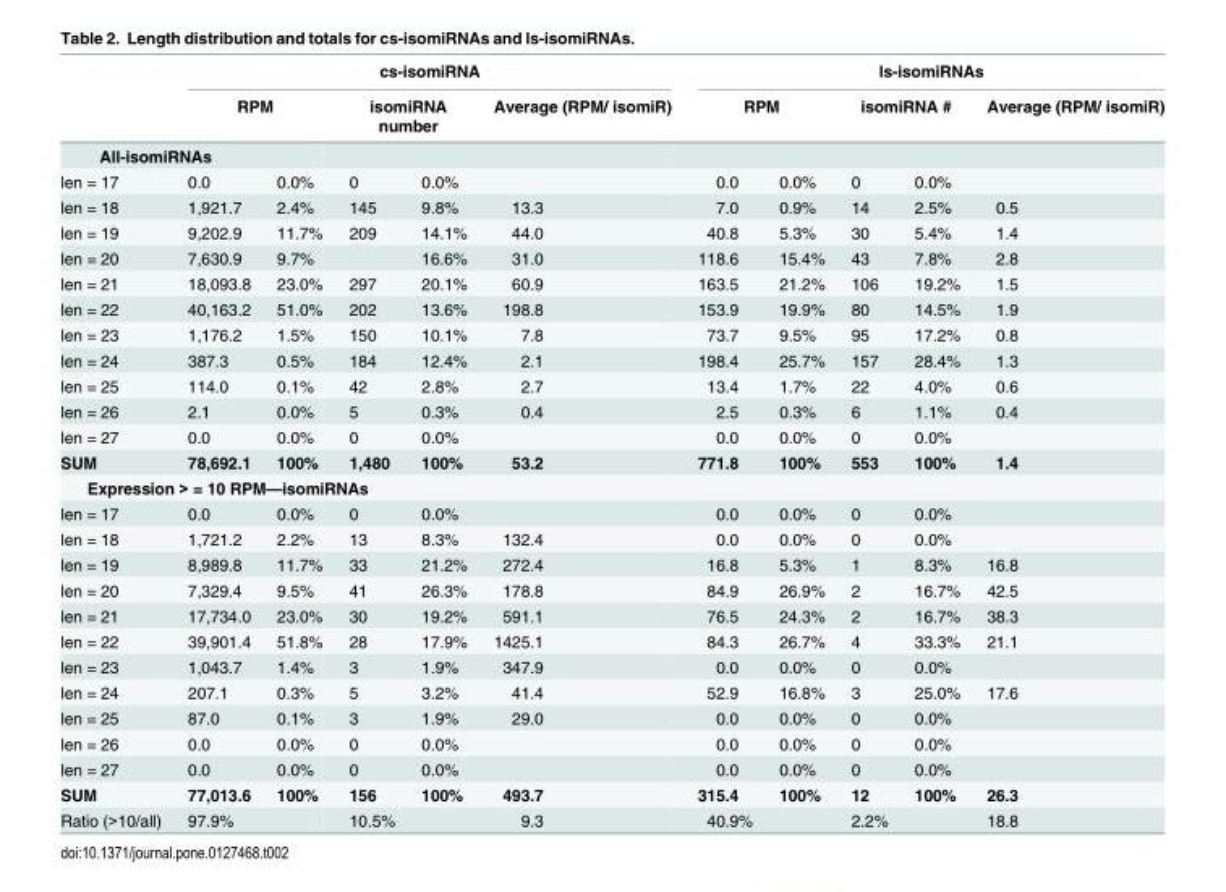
<table><thead><tr><td rowspan="2"></td><td colspan="5">cs-isomiRNA</td><td colspan="5">ls-isomiRNAs</td></tr><tr><td colspan="2">RPM</td><td colspan="2">isomiRNA number</td><td rowspan="3">Average (RPM/ isomiR)</td><td colspan="2">RPM</td><td colspan="2">isomiRNA #</td><td rowspan="3">Average (RPM/ isomiR)</td></tr><tr><td colspan="2">All-isomiRNAs</td><td rowspan="2">0.0%</td><td rowspan="2">0</td><td rowspan="2">0.0%</td><td rowspan="2">0.0</td><td rowspan="2">0.0%</td><td rowspan="2">0</td><td rowspan="2">0.0%</td></tr><tr><td>len = 17</td><td>0.0</td></tr></thead><tbody><tr><td>len = 18</td><td>1,921.7</td><td>2.4%</td><td>145</td><td>9.8%</td><td>13.3</td><td>7.0</td><td>0.9%</td><td>14</td><td>2.5%</td><td>0.5</td></tr><tr><td>len = 19</td><td>9,202.9</td><td>11.7%</td><td>209</td><td>14.1%</td><td>44.0</td><td>40.8</td><td>5.3%</td><td>30</td><td>5.4%</td><td>1.4</td></tr><tr><td>len = 20</td><td>7,630.9</td><td>9.7%</td><td></td><td>16.6%</td><td>31.0</td><td>118.6</td><td>15.4%</td><td>43</td><td>7.8%</td><td>2.8</td></tr><tr><td>len = 21</td><td>18,093.8</td><td>23.0%</td><td>297</td><td>20.1%</td><td>60.9</td><td>163.5</td><td>21.2%</td><td>106</td><td>19.2%</td><td>1.5</td></tr><tr><td>len = 22</td><td>40,163.2</td><td>51.0%</td><td>202</td><td>13.6%</td><td>198.8</td><td>153.9</td><td>19.9%</td><td>80</td><td>14.5%</td><td>1.9</td></tr><tr><td>len = 23</td><td>1,176.2</td><td>1.5%</td><td>150</td><td>10.1%</td><td>7.8</td><td>73.7</td><td>9.5%</td><td>95</td><td>17.2%</td><td>0.8</td></tr><tr><td>len = 24</td><td>387.3</td><td>0.5%</td><td>184</td><td>12.4%</td><td>2.1</td><td>198.4</td><td>25.7%</td><td>157</td><td>28.4%</td><td>1.3</td></tr><tr><td>len = 25</td><td>114.0</td><td>0.1%</td><td>42</td><td>2.8%</td><td>2.7</td><td>13.4</td><td>1.7%</td><td>22</td><td>4.0%</td><td>0.6</td></tr><tr><td>len = 26</td><td>2.1</td><td>0.0%</td><td>5</td><td>0.3%</td><td>0.4</td><td>2.5</td><td>0.3%</td><td>6</td><td>1.1%</td><td>0.4</td></tr><tr><td>len = 27</td><td>0.0</td><td>0.0%</td><td>0</td><td>0.0%</td><td></td><td>0.0</td><td>0.0%</td><td>0</td><td>0.0%</td><td></td></tr><tr><td>SUM</td><td>78,692.1</td><td>100%</td><td>1,480</td><td>100%</td><td>53.2</td><td>771.8</td><td>100%</td><td>553</td><td>100%</td><td>1.4</td></tr><tr><td colspan="11">Expression &gt; = 10 RPM—isomiRNAs</td></tr><tr><td>len = 17</td><td>0.0</td><td>0.0%</td><td>0</td><td>0.0%</td><td></td><td>0.0</td><td>0.0%</td><td>0</td><td>0.0%</td><td></td></tr><tr><td>len = 18</td><td>1,721.2</td><td>2.2%</td><td>13</td><td>8.3%</td><td>132.4</td><td>0.0</td><td>0.0%</td><td>0</td><td>0.0%</td><td></td></tr><tr><td>len = 19</td><td>8,989.8</td><td>11.7%</td><td>33</td><td>21.2%</td><td>272.4</td><td>16.8</td><td>5.3%</td><td>1</td><td>8.3%</td><td>16.8</td></tr><tr><td>len = 20</td><td>7,329.4</td><td>9.5%</td><td>41</td><td>26.3%</td><td>178.8</td><td>84.9</td><td>26.9%</td><td>2</td><td>16.7%</td><td>42.5</td></tr><tr><td>len = 21</td><td>17,734.0</td><td>23.0%</td><td>30</td><td>19.2%</td><td>591.1</td><td>76.5</td><td>24.3%</td><td>2</td><td>16.7%</td><td>38.3</td></tr><tr><td>len = 22</td><td>39,901.4</td><td>51.8%</td><td>28</td><td>17.9%</td><td>1425.1</td><td>84.3</td><td>26.7%</td><td>4</td><td>33.3%</td><td>21.1</td></tr><tr><td>len = 23</td><td>1,043.7</td><td>1.4%</td><td>3</td><td>1.9%</td><td>347.9</td><td>0.0</td><td>0.0%</td><td>0</td><td>0.0%</td><td></td></tr><tr><td>len = 24</td><td>207.1</td><td>0.3%</td><td>5</td><td>3.2%</td><td>41.4</td><td>52.9</td><td>16.8%</td><td>3</td><td>25.0%</td><td>17.6</td></tr><tr><td>len = 25</td><td>87.0</td><td>0.1%</td><td>3</td><td>1.9%</td><td>29.0</td><td>0.0</td><td>0.0%</td><td>0</td><td>0.0%</td><td></td></tr><tr><td>len = 26</td><td>0.0</td><td>0.0%</td><td>0</td><td>0.0%</td><td></td><td>0.0</td><td>0.0%</td><td>0</td><td>0.0%</td><td></td></tr><tr><td>len = 27</td><td>0.0</td><td>0.0%</td><td>0</td><td>0.0%</td><td></td><td>0.0</td><td>0.0%</td><td>0</td><td>0.0%</td><td></td></tr><tr><td>SUM</td><td>77,013.6</td><td>100%</td><td>156</td><td>100%</td><td>493.7</td><td>315.4</td><td>100%</td><td>12</td><td>100%</td><td>26.3</td></tr><tr><td>Ratio (&gt;10/all)</td><td>97.9%</td><td></td><td>10.5%</td><td></td><td>9.3</td><td>40.9%</td><td></td><td>2.2%</td><td></td><td>18.8</td></tr></tbody></table>